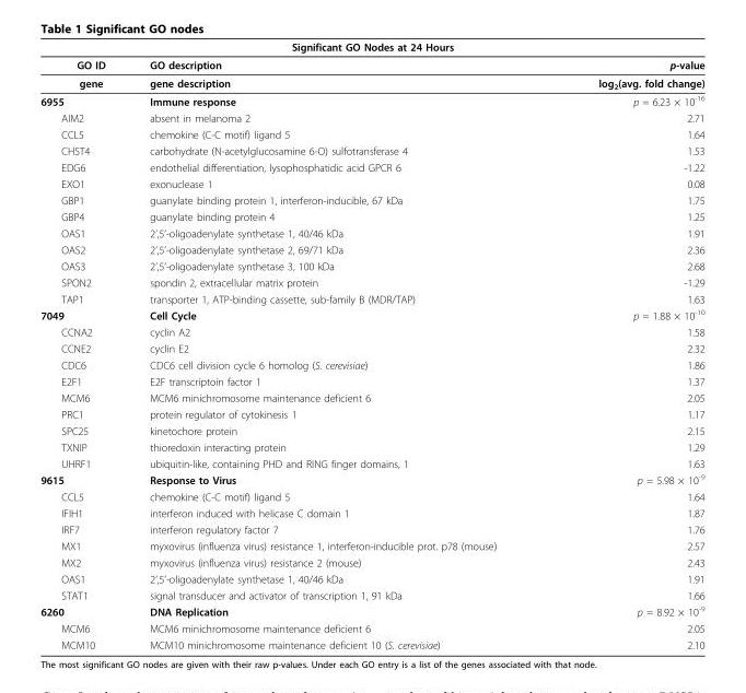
<table><thead><tr><td colspan="3">Significant GO Nodes at 24 Hours</td></tr><tr><td>GO ID</td><td>GO description</td><td>p-value</td></tr></thead><tbody><tr><td>gene</td><td>gene description</td><td>log<sub>2</sub>(avg. fold change)</td></tr><tr><td>6955</td><td>Immune response</td><td>p = 6.23 × 10<sup>-16</sup></td></tr><tr><td>AIM2</td><td>absent in melanoma 2</td><td>2.71</td></tr><tr><td>CCL5</td><td>chemokine (C-C motif) ligand 5</td><td>1.64</td></tr><tr><td>CHST4</td><td>carbohydrate (N-acetylglucosamine 6-O) sulfotransferase 4</td><td>1.53</td></tr><tr><td>EDG6</td><td>endothelial differentiation, lysophosphatidic acid GPCR 6</td><td>-1.22</td></tr><tr><td>EXO1</td><td>exonuclease 1</td><td>0.08</td></tr><tr><td>GBP1</td><td>guanylate binding protein 1, interferon-inducible, 67 kDa</td><td>1.75</td></tr><tr><td>GBP4</td><td>guanylate binding protein 4</td><td>1.25</td></tr><tr><td>OAS1</td><td>2’,5’-oligoadenylate synthetase 1, 40/46 kDa</td><td>1.91</td></tr><tr><td>OAS2</td><td>2’,5’-oligoadenylate synthetase 2, 69/71 kDa</td><td>2.36</td></tr><tr><td>OAS3</td><td>2’,5’-oligoadenylate synthetase 3, 100 kDa</td><td>2.68</td></tr><tr><td>SPON2</td><td>spondin 2, extracellular matrix protein</td><td>-1.29</td></tr><tr><td>TAP1</td><td>transporter 1, ATP-binding cassette, sub-family B (MDR/TAP)</td><td>1.63</td></tr><tr><td>7049</td><td>Cell Cycle</td><td>p = 1.88 × 10<sup>-10</sup></td></tr><tr><td>CCNA2</td><td>cyclin A2</td><td>1.58</td></tr><tr><td>CCNE2</td><td>cyclin E2</td><td>2.32</td></tr><tr><td>CDC6</td><td>CDC6 cell division cycle 6 homolog (S. cerevisiae)</td><td>1.86</td></tr><tr><td>E2F1</td><td>E2F transcriptoin factor 1</td><td>1.37</td></tr><tr><td>MCM6</td><td>MCM6 minichromosome maintenance deficient 6</td><td>2.05</td></tr><tr><td>PRC1</td><td>protein regulator of cytokinesis 1</td><td>1.17</td></tr><tr><td>SPC25</td><td>kinetochore protein</td><td>2.15</td></tr><tr><td>TXNIP</td><td>thioredoxin interacting protein</td><td>1.29</td></tr><tr><td>UHRF1</td><td>ubiquitin-like, containing PHD and RING finger domains, 1</td><td>1.63</td></tr><tr><td>9615</td><td>Response to Virus</td><td>p = 5.98 × 10<sup>-9</sup></td></tr><tr><td>CCL5</td><td>chemokine (C-C motif) ligand 5</td><td>1.64</td></tr><tr><td>IFIH1</td><td>interferon induced with helicase C domain 1</td><td>1.87</td></tr><tr><td>IRF7</td><td>interferon regulatory factor 7</td><td>1.76</td></tr><tr><td>MX1</td><td>myxovirus (influenza virus) resistance 1, interferon-inducible prot. p78 (mouse)</td><td>2.57</td></tr><tr><td>MX2</td><td>myxovirus (influenza virus) resistance 2 (mouse)</td><td>2.43</td></tr><tr><td>OAS1</td><td>2’,5’-oligoadenylate synthetase 1, 40/46 kDa</td><td>1.91</td></tr><tr><td>STAT1</td><td>signal transducer and activator of transcription 1, 91 kDa</td><td>1.66</td></tr><tr><td>6260</td><td>DNA Replication</td><td>p = 8.92 × 10<sup>-9</sup></td></tr><tr><td>MCM6</td><td>MCM6 minichromosome maintenance deficient 6</td><td>2.05</td></tr><tr><td>MCM10</td><td>MCM10 minichromosome maintenance deficient 10 (S. cerevisiae)</td><td>2.10</td></tr></tbody></table>